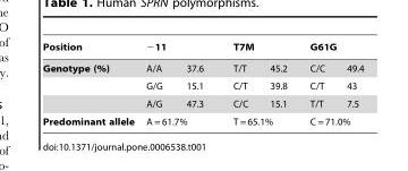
<table><thead><tr><td rowspan="2">Position Genotype (%)</td><td colspan="2">−11</td><td colspan="2">T7M</td><td colspan="2">G61G</td></tr><tr><td>A/A</td><td>37.6</td><td>T/T</td><td>45.2</td><td>C/C</td><td>49.4</td></tr></thead><tbody><tr><td></td><td>G/G</td><td>15.1</td><td>C/T</td><td>39.8</td><td>C/T</td><td>43</td></tr><tr><td></td><td>A/G</td><td>47.3</td><td>C/C</td><td>15.1</td><td>T/T</td><td>7.5</td></tr><tr><td>Predominant allele</td><td colspan="2">A = 61.7%</td><td colspan="2">T = 65.1%</td><td colspan="2">C = 71.0%</td></tr></tbody></table>